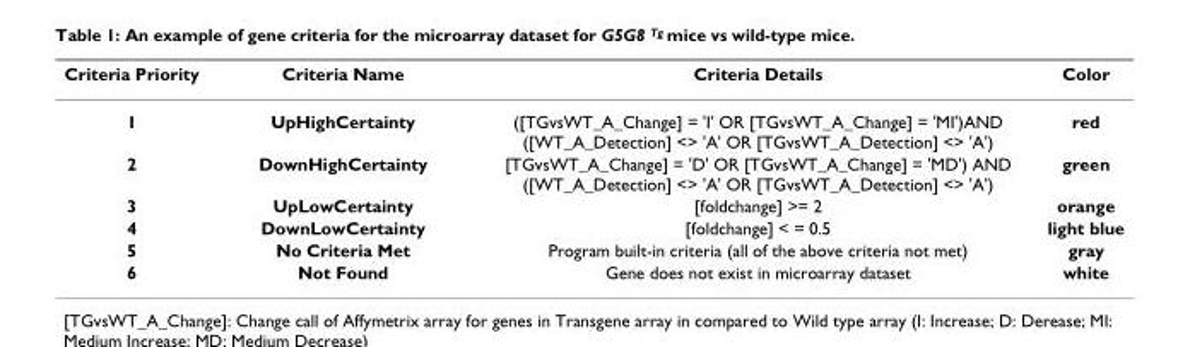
<table><thead><tr><td>Criteria Priority</td><td>Criteria Name</td><td>Criteria Details</td><td>Color</td></tr></thead><tbody><tr><td>1</td><td>UpHighCertainty</td><td>([TGvsWT_A_Change] = &#x27;I&#x27; OR [TGvsWT_A_Change] = &#x27;MI&#x27;)AND ([WT_A_Detection] &lt;&gt; &#x27;A&#x27; OR [TGvsWT_A_Detection] &lt;&gt; &#x27;A&#x27;)</td><td>red</td></tr><tr><td>2</td><td>DownHighCertainty</td><td>[TGvsWT_A_Change] = &#x27;D&#x27; OR [TGvsWT_A_Change] = &#x27;MD&#x27;) AND ([WT_A_Detection] &lt;&gt; &#x27;A&#x27; OR [TGvsWT_A_Detection] &lt;&gt; &#x27;A&#x27;)</td><td>green</td></tr><tr><td>3</td><td>UpLowCertainty</td><td>[foldchange] &gt;= 2</td><td>orange</td></tr><tr><td>4</td><td>DownLowCertainty</td><td>[foldchange] &lt; = 0.5</td><td>light blue</td></tr><tr><td>5</td><td>No Criteria Met</td><td>Program built-in criteria (all of the above criteria not met)</td><td>gray</td></tr><tr><td>6</td><td>Not Found</td><td>Gene does not exist in microarray dataset</td><td>white</td></tr></tbody></table>